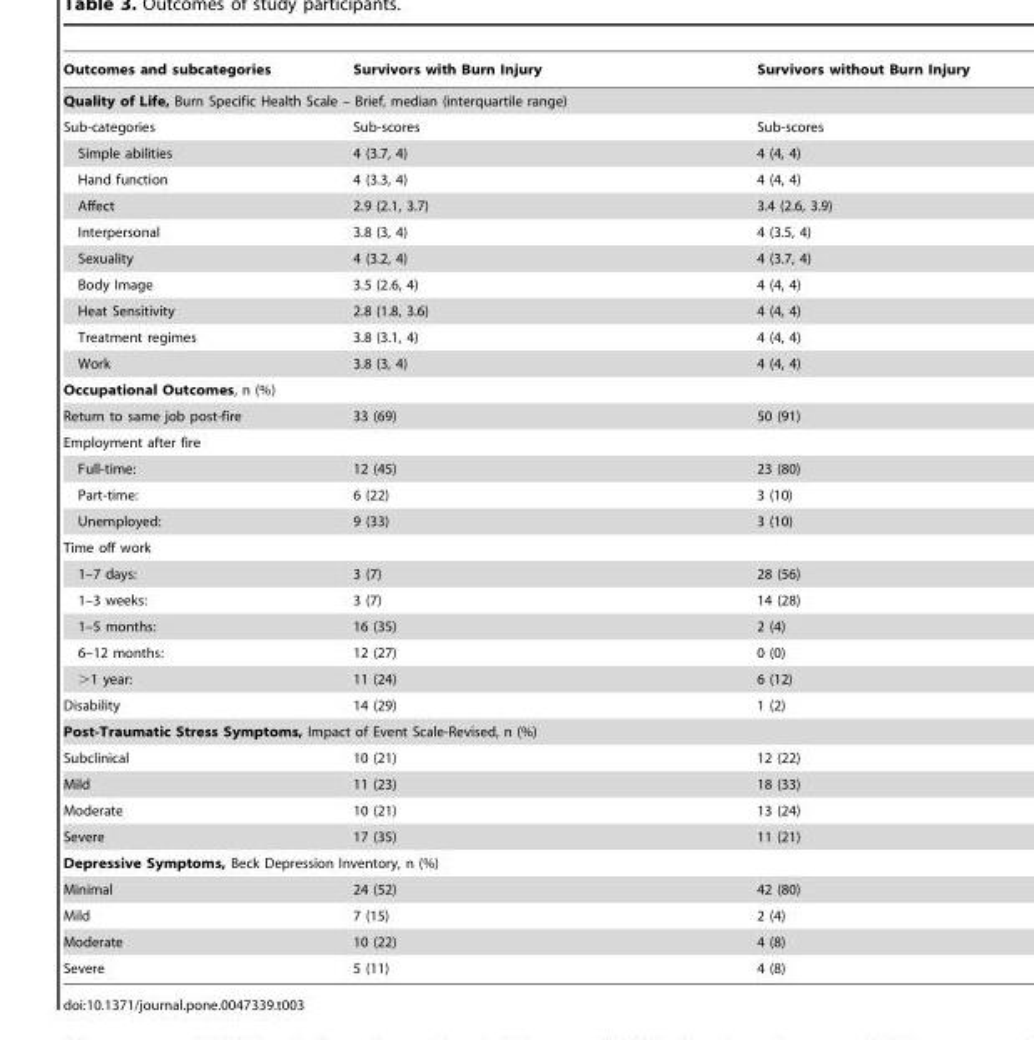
<table><thead><tr><td>Outcomes and subcategories</td><td>Survivors with Burn Injury</td><td>Survivors without Burn Injury</td></tr></thead><tbody><tr><td colspan="3">Quality of Life, Burn Specific Health Scale – Brief, median (interquartile range)</td></tr><tr><td>Sub-categories</td><td>Sub-scores</td><td>Sub-scores</td></tr><tr><td>Simple abilities</td><td>4 (3.7, 4)</td><td>4 (4, 4)</td></tr><tr><td>Hand function</td><td>4 (3.3, 4)</td><td>4 (4, 4)</td></tr><tr><td>Affect</td><td>2.9 (2.1, 3.7)</td><td>3.4 (2.6, 3.9)</td></tr><tr><td>Interpersonal</td><td>3.8 (3, 4)</td><td>4 (3.5, 4)</td></tr><tr><td>Sexuality</td><td>4 (3.2, 4)</td><td>4 (3.7, 4)</td></tr><tr><td>Body Image</td><td>3.5 (2.6, 4)</td><td>4 (4, 4)</td></tr><tr><td>Heat Sensitivity</td><td>2.8 (1.8, 3.6)</td><td>4 (4, 4)</td></tr><tr><td>Treatment regimes</td><td>3.8 (3.1, 4)</td><td>4 (4, 4)</td></tr><tr><td>Work</td><td>3.8 (3, 4)</td><td>4 (4, 4)</td></tr><tr><td colspan="3">Occupational Outcomes, n (%)</td></tr><tr><td>Return to same job post-fire</td><td>33 (69)</td><td>50 (91)</td></tr><tr><td colspan="3">Employment after fire</td></tr><tr><td>Full-time:</td><td>12 (45)</td><td>23 (80)</td></tr><tr><td>Part-time:</td><td>6 (22)</td><td>3 (10)</td></tr><tr><td>Unemployed:</td><td>9 (33)</td><td>3 (10)</td></tr><tr><td colspan="3">Time off work</td></tr><tr><td>1–7 days:</td><td>3 (7)</td><td>28 (56)</td></tr><tr><td>1–3 weeks:</td><td>3 (7)</td><td>14 (28)</td></tr><tr><td>1–5 months:</td><td>16 (35)</td><td>2 (4)</td></tr><tr><td>6–12 months:</td><td>12 (27)</td><td>0 (0)</td></tr><tr><td>&gt;1 year:</td><td>11 (24)</td><td>6 (12)</td></tr><tr><td>Disability</td><td>14 (29)</td><td>1 (2)</td></tr><tr><td colspan="3">Post-Traumatic Stress Symptoms, Impact of Event Scale-Revised, n (%)</td></tr><tr><td>Subclinical</td><td>10 (21)</td><td>12 (22)</td></tr><tr><td>Mild</td><td>11 (23)</td><td>18 (33)</td></tr><tr><td>Moderate</td><td>10 (21)</td><td>13 (24)</td></tr><tr><td>Severe</td><td>17 (35)</td><td>11 (21)</td></tr><tr><td colspan="3">Depressive Symptoms, Beck Depression Inventory, n (%)</td></tr><tr><td>Minimal</td><td>24 (52)</td><td>42 (80)</td></tr><tr><td>Mild</td><td>7 (15)</td><td>2 (4)</td></tr><tr><td>Moderate</td><td>10 (22)</td><td>4 (8)</td></tr><tr><td>Severe</td><td>5 (11)</td><td>4 (8)</td></tr></tbody></table>